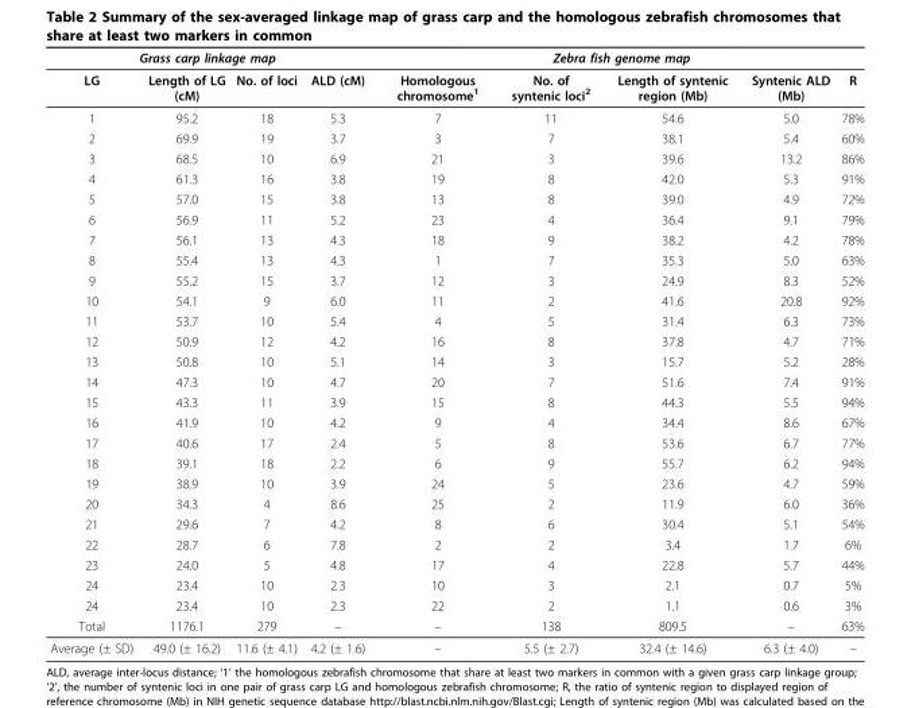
<table><thead><tr><td colspan="4">Grass carp linkage map</td><td colspan="5">Zebra fish genome map</td></tr><tr><td>LG</td><td>Length of LG (cM)</td><td>No. of loci</td><td>ALD (cM)</td><td>Homologous chromosome<sup>1</sup></td><td>No. of syntenic loci<sup>2</sup></td><td>Length of syntenic region (Mb)</td><td>Syntenic ALD (Mb)</td><td>R</td></tr></thead><tbody><tr><td>1</td><td>95.2</td><td>18</td><td>5.3</td><td>7</td><td>11</td><td>54.6</td><td>5.0</td><td>78%</td></tr><tr><td>2</td><td>69.9</td><td>19</td><td>3.7</td><td>3</td><td>7</td><td>38.1</td><td>5.4</td><td>60%</td></tr><tr><td>3</td><td>68.5</td><td>10</td><td>6.9</td><td>21</td><td>3</td><td>39.6</td><td>13.2</td><td>86%</td></tr><tr><td>4</td><td>61.3</td><td>16</td><td>3.8</td><td>19</td><td>8</td><td>42.0</td><td>5.3</td><td>91%</td></tr><tr><td>5</td><td>57.0</td><td>15</td><td>3.8</td><td>13</td><td>8</td><td>39.0</td><td>4.9</td><td>72%</td></tr><tr><td>6</td><td>56.9</td><td>11</td><td>5.2</td><td>23</td><td>4</td><td>36.4</td><td>9.1</td><td>79%</td></tr><tr><td>7</td><td>56.1</td><td>13</td><td>4.3</td><td>18</td><td>9</td><td>38.2</td><td>4.2</td><td>78%</td></tr><tr><td>8</td><td>55.4</td><td>13</td><td>4.3</td><td>1</td><td>7</td><td>35.3</td><td>5.0</td><td>63%</td></tr><tr><td>9</td><td>55.2</td><td>15</td><td>3.7</td><td>12</td><td>3</td><td>24.9</td><td>8.3</td><td>52%</td></tr><tr><td>10</td><td>54.1</td><td>9</td><td>6.0</td><td>11</td><td>2</td><td>41.6</td><td>20.8</td><td>92%</td></tr><tr><td>11</td><td>53.7</td><td>10</td><td>5.4</td><td>4</td><td>5</td><td>31.4</td><td>6.3</td><td>73%</td></tr><tr><td>12</td><td>50.9</td><td>12</td><td>4.2</td><td>16</td><td>8</td><td>37.8</td><td>4.7</td><td>71%</td></tr><tr><td>13</td><td>50.8</td><td>10</td><td>5.1</td><td>14</td><td>3</td><td>15.7</td><td>5.2</td><td>28%</td></tr><tr><td>14</td><td>47.3</td><td>10</td><td>4.7</td><td>20</td><td>7</td><td>51.6</td><td>7.4</td><td>91%</td></tr><tr><td>15</td><td>43.3</td><td>11</td><td>3.9</td><td>15</td><td>8</td><td>44.3</td><td>5.5</td><td>94%</td></tr><tr><td>16</td><td>41.9</td><td>10</td><td>4.2</td><td>9</td><td>4</td><td>34.4</td><td>8.6</td><td>67%</td></tr><tr><td>17</td><td>40.6</td><td>17</td><td>2.4</td><td>5</td><td>8</td><td>53.6</td><td>6.7</td><td>77%</td></tr><tr><td>18</td><td>39.1</td><td>18</td><td>2.2</td><td>6</td><td>9</td><td>55.7</td><td>6.2</td><td>94%</td></tr><tr><td>19</td><td>38.9</td><td>10</td><td>3.9</td><td>24</td><td>5</td><td>23.6</td><td>4.7</td><td>59%</td></tr><tr><td>20</td><td>34.3</td><td>4</td><td>8.6</td><td>25</td><td>2</td><td>11.9</td><td>6.0</td><td>36%</td></tr><tr><td>21</td><td>29.6</td><td>7</td><td>4.2</td><td>8</td><td>6</td><td>30.4</td><td>5.1</td><td>54%</td></tr><tr><td>22</td><td>28.7</td><td>6</td><td>7.8</td><td>2</td><td>2</td><td>3.4</td><td>1.7</td><td>6%</td></tr><tr><td>23</td><td>24.0</td><td>5</td><td>4.8</td><td>17</td><td>4</td><td>22.8</td><td>5.7</td><td>44%</td></tr><tr><td>24</td><td>23.4</td><td>10</td><td>2.3</td><td>10</td><td>3</td><td>2.1</td><td>0.7</td><td>5%</td></tr><tr><td>24</td><td>23.4</td><td>10</td><td>2.3</td><td>22</td><td>2</td><td>1.1</td><td>0.6</td><td>3%</td></tr><tr><td>Total</td><td>1176.1</td><td>279</td><td>–</td><td>–</td><td>138</td><td>809.5</td><td>–</td><td>63%</td></tr><tr><td>Average (± SD)</td><td>49.0 (± 16.2)</td><td>11.6 (± 4.1)</td><td>4.2 (± 1.6)</td><td>–</td><td>5.5 (± 2.7)</td><td>32.4 (± 14.6)</td><td>6.3 (± 4.0)</td><td>–</td></tr></tbody></table>